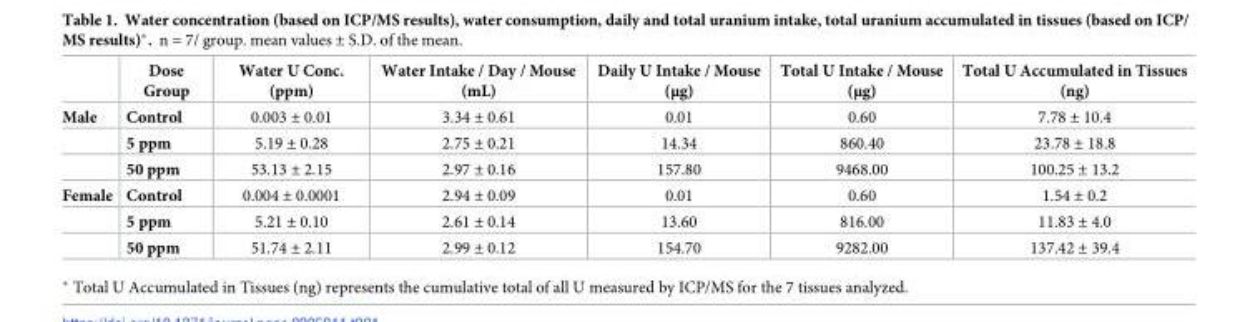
<table><thead><tr><td></td><td>Dose Group</td><td>Water U Conc. (ppm)</td><td>Water Intake / Day / Mouse (mL)</td><td>Daily U Intake / Mouse (μg)</td><td>Total U Intake / Mouse (μg)</td><td>Total U Accumulated in Tissues (ng)</td></tr></thead><tbody><tr><td rowspan="3">Male</td><td>Control</td><td>0.003 ± 0.01</td><td>3.34 ± 0.61</td><td>0.01</td><td>0.60</td><td>7.78 ± 10.4</td></tr><tr><td>5 ppm</td><td>5.19 ± 0.28</td><td>2.75 ± 0.21</td><td>14.34</td><td>860.40</td><td>23.78 ± 18.8</td></tr><tr><td>50 ppm</td><td>53.13 ± 2.15</td><td>2.97 ± 0.16</td><td>157.80</td><td>9468.00</td><td>100.25 ± 13.2</td></tr><tr><td rowspan="3">Female</td><td>Control</td><td>0.004 ± 0.0001</td><td>2.94 ± 0.09</td><td>0.01</td><td>0.60</td><td>1.54 ± 0.2</td></tr><tr><td>5 ppm</td><td>5.21 ± 0.10</td><td>2.61 ± 0.14</td><td>13.60</td><td>816.00</td><td>11.83 ± 4.0</td></tr><tr><td>50 ppm</td><td>51.74 ± 2.11</td><td>2.99 ± 0.12</td><td>154.70</td><td>9282.00</td><td>137.42 ± 39.4</td></tr></tbody></table>